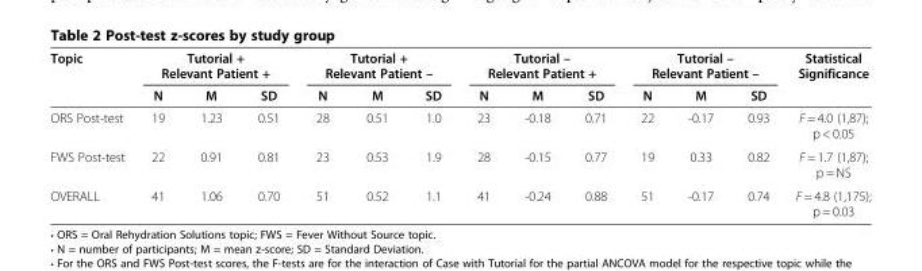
<table><thead><tr><td rowspan="2">Topic</td><td colspan="3">Tutorial + Relevant Patient +</td><td colspan="3">Tutorial + Relevant Patient –</td><td colspan="3">Tutorial – Relevant Patient +</td><td colspan="3">Tutorial – Relevant Patient –</td><td rowspan="2">Statistical Significance</td></tr><tr><td>N</td><td>M</td><td>SD</td><td>N</td><td>M</td><td>SD</td><td>N</td><td>M</td><td>SD</td><td>N</td><td>M</td><td>SD</td></tr></thead><tbody><tr><td>ORS Post-test</td><td>19</td><td>1.23</td><td>0.51</td><td>28</td><td>0.51</td><td>1.0</td><td>23</td><td>-0.18</td><td>0.71</td><td>22</td><td>-0.17</td><td>0.93</td><td>F = 4.0 (1,87); p &lt; 0.05</td></tr><tr><td>FWS Post-test</td><td>22</td><td>0.91</td><td>0.81</td><td>23</td><td>0.53</td><td>1.9</td><td>28</td><td>-0.15</td><td>0.77</td><td>19</td><td>0.33</td><td>0.82</td><td>F = 1.7 (1,87); p = NS</td></tr><tr><td>OVERALL</td><td>41</td><td>1.06</td><td>0.70</td><td>51</td><td>0.52</td><td>1.1</td><td>41</td><td>-0.24</td><td>0.88</td><td>51</td><td>-0.17</td><td>0.74</td><td>F = 4.8 (1,175); p = 0.03</td></tr></tbody></table>